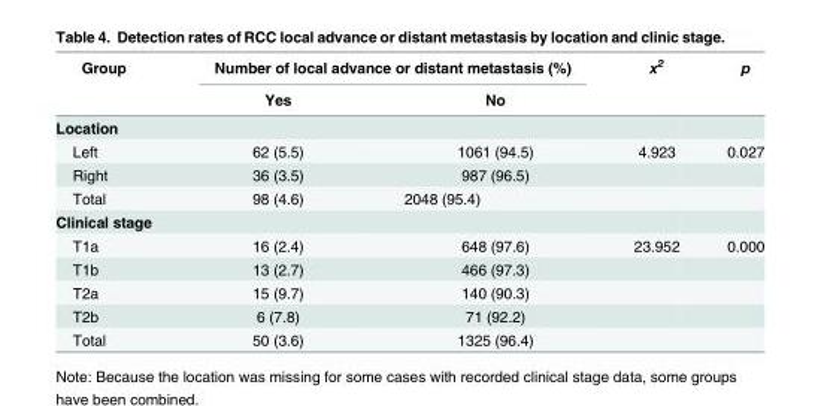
<table><thead><tr><td rowspan="2">Group</td><td colspan="2">Number of local advance or distant metastasis (%)</td><td rowspan="2">x<sup>2</sup></td><td rowspan="2">p</td></tr><tr><td>Yes</td><td>No</td></tr></thead><tbody><tr><td colspan="5">Location</td></tr><tr><td>Left</td><td>62 (5.5)</td><td>1061 (94.5)</td><td>4.923</td><td>0.027</td></tr><tr><td>Right</td><td>36 (3.5)</td><td>987 (96.5)</td><td></td><td></td></tr><tr><td>Total</td><td>98 (4.6)</td><td>2048 (95.4)</td><td></td><td></td></tr><tr><td colspan="5">Clinical stage</td></tr><tr><td>T1a</td><td>16 (2.4)</td><td>648 (97.6)</td><td>23.952</td><td>0.000</td></tr><tr><td>T1b</td><td>13 (2.7)</td><td>466 (97.3)</td><td></td><td></td></tr><tr><td>T2a</td><td>15 (9.7)</td><td>140 (90.3)</td><td></td><td></td></tr><tr><td>T2b</td><td>6 (7.8)</td><td>71 (92.2)</td><td></td><td></td></tr><tr><td>Total</td><td>50 (3.6)</td><td>1325 (96.4)</td><td></td><td></td></tr></tbody></table>